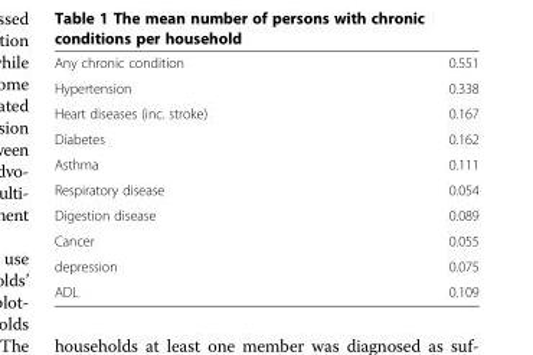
<table><tbody><tr><td>Any chronic condition</td><td>0.551</td></tr><tr><td>Hypertension</td><td>0.338</td></tr><tr><td>Heart diseases (inc. stroke)</td><td>0.167</td></tr><tr><td>Diabetes</td><td>0.162</td></tr><tr><td>Asthma</td><td>0.111</td></tr><tr><td>Respiratory disease</td><td>0.054</td></tr><tr><td>Digestion disease</td><td>0.089</td></tr><tr><td>Cancer</td><td>0.055</td></tr><tr><td>depression</td><td>0.075</td></tr><tr><td>ADL</td><td>0.109</td></tr></tbody></table>